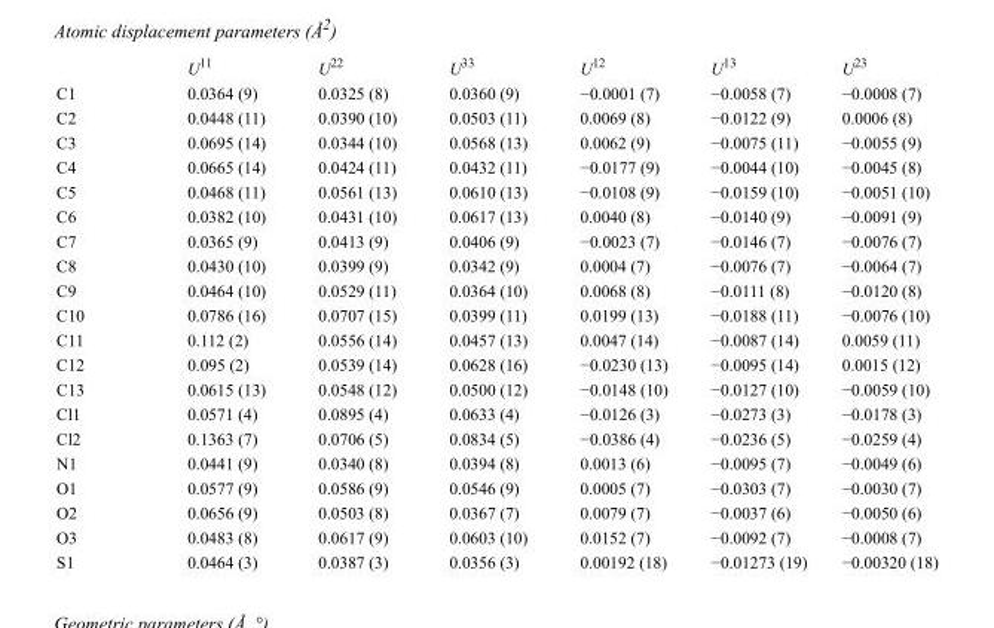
<table><thead><tr><td></td><td>U<sup>11</sup></td><td>U<sup>22</sup></td><td>U<sup>33</sup></td><td>U<sup>12</sup></td><td>U<sup>13</sup></td><td>U<sup>23</sup></td></tr></thead><tbody><tr><td>C1</td><td>0.0364 (9)</td><td>0.0325 (8)</td><td>0.0360 (9)</td><td>−0.0001 (7)</td><td>−0.0058 (7)</td><td>−0.0008 (7)</td></tr><tr><td>C2</td><td>0.0448 (11)</td><td>0.0390 (10)</td><td>0.0503 (11)</td><td>0.0069 (8)</td><td>−0.0122 (9)</td><td>0.0006 (8)</td></tr><tr><td>C3</td><td>0.0695 (14)</td><td>0.0344 (10)</td><td>0.0568 (13)</td><td>0.0062 (9)</td><td>−0.0075 (11)</td><td>−0.0055 (9)</td></tr><tr><td>C4</td><td>0.0665 (14)</td><td>0.0424 (11)</td><td>0.0432 (11)</td><td>−0.0177 (9)</td><td>−0.0044 (10)</td><td>−0.0045 (8)</td></tr><tr><td>C5</td><td>0.0468 (11)</td><td>0.0561 (13)</td><td>0.0610 (13)</td><td>−0.0108 (9)</td><td>−0.0159 (10)</td><td>−0.0051 (10)</td></tr><tr><td>C6</td><td>0.0382 (10)</td><td>0.0431 (10)</td><td>0.0617 (13)</td><td>0.0040 (8)</td><td>−0.0140 (9)</td><td>−0.0091 (9)</td></tr><tr><td>C7</td><td>0.0365 (9)</td><td>0.0413 (9)</td><td>0.0406 (9)</td><td>−0.0023 (7)</td><td>−0.0146 (7)</td><td>−0.0076 (7)</td></tr><tr><td>C8</td><td>0.0430 (10)</td><td>0.0399 (9)</td><td>0.0342 (9)</td><td>0.0004 (7)</td><td>−0.0076 (7)</td><td>−0.0064 (7)</td></tr><tr><td>C9</td><td>0.0464 (10)</td><td>0.0529 (11)</td><td>0.0364 (10)</td><td>0.0068 (8)</td><td>−0.0111 (8)</td><td>−0.0120 (8)</td></tr><tr><td>C10</td><td>0.0786 (16)</td><td>0.0707 (15)</td><td>0.0399 (11)</td><td>0.0199 (13)</td><td>−0.0188 (11)</td><td>−0.0076 (10)</td></tr><tr><td>C11</td><td>0.112 (2)</td><td>0.0556 (14)</td><td>0.0457 (13)</td><td>0.0047 (14)</td><td>−0.0087 (14)</td><td>0.0059 (11)</td></tr><tr><td>C12</td><td>0.095 (2)</td><td>0.0539 (14)</td><td>0.0628 (16)</td><td>−0.0230 (13)</td><td>−0.0095 (14)</td><td>0.0015 (12)</td></tr><tr><td>C13</td><td>0.0615 (13)</td><td>0.0548 (12)</td><td>0.0500 (12)</td><td>−0.0148 (10)</td><td>−0.0127 (10)</td><td>−0.0059 (10)</td></tr><tr><td>Cl1</td><td>0.0571 (4)</td><td>0.0895 (4)</td><td>0.0633 (4)</td><td>−0.0126 (3)</td><td>−0.0273 (3)</td><td>−0.0178 (3)</td></tr><tr><td>Cl2</td><td>0.1363 (7)</td><td>0.0706 (5)</td><td>0.0834 (5)</td><td>−0.0386 (4)</td><td>−0.0236 (5)</td><td>−0.0259 (4)</td></tr><tr><td>N1</td><td>0.0441 (9)</td><td>0.0340 (8)</td><td>0.0394 (8)</td><td>0.0013 (6)</td><td>−0.0095 (7)</td><td>−0.0049 (6)</td></tr><tr><td>O1</td><td>0.0577 (9)</td><td>0.0586 (9)</td><td>0.0546 (9)</td><td>0.0005 (7)</td><td>−0.0303 (7)</td><td>−0.0030 (7)</td></tr><tr><td>O2</td><td>0.0656 (9)</td><td>0.0503 (8)</td><td>0.0367 (7)</td><td>0.0079 (7)</td><td>−0.0037 (6)</td><td>−0.0050 (6)</td></tr><tr><td>O3</td><td>0.0483 (8)</td><td>0.0617 (9)</td><td>0.0603 (10)</td><td>0.0152 (7)</td><td>−0.0092 (7)</td><td>−0.0008 (7)</td></tr><tr><td>S1</td><td>0.0464 (3)</td><td>0.0387 (3)</td><td>0.0356 (3)</td><td>0.00192 (18)</td><td>−0.01273 (19)</td><td>−0.00320 (18)</td></tr></tbody></table>